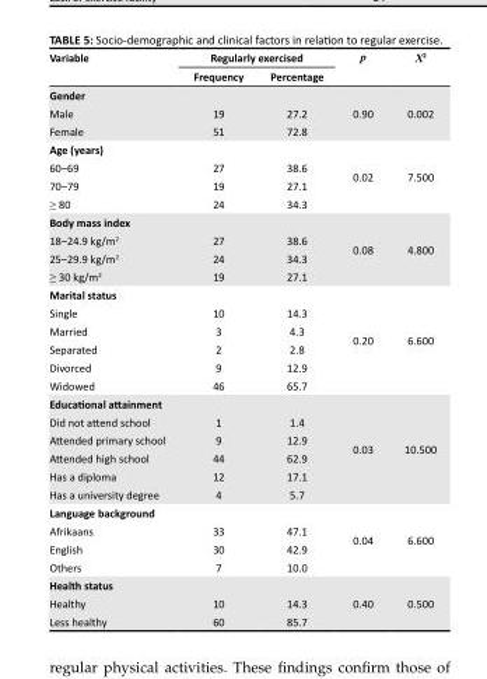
<table><thead><tr><td rowspan="2">Variable</td><td colspan="2">Regularly exercised</td><td rowspan="2">p</td><td rowspan="2">X<sup>2</sup></td></tr><tr><td>Frequency</td><td>Percentage</td></tr></thead><tbody><tr><td colspan="3">Gender</td><td rowspan="3">0.90</td><td rowspan="3">0.002</td></tr><tr><td>Male</td><td>19</td><td>27.2</td></tr><tr><td>Female</td><td>51</td><td>72.8</td></tr><tr><td colspan="3">Age (years)</td><td rowspan="4">0.02</td><td rowspan="4">7.500</td></tr><tr><td>60–69</td><td>27</td><td>38.6</td></tr><tr><td>70–79</td><td>19</td><td>27.1</td></tr><tr><td>≥ 80</td><td>24</td><td>34.3</td></tr><tr><td colspan="3">Body mass index</td><td rowspan="4">0.08</td><td rowspan="4">4.800</td></tr><tr><td>18–24.9 kg/m<sup>2</sup></td><td>27</td><td>38.6</td></tr><tr><td>25–29.9 kg/m<sup>2</sup></td><td>24</td><td>34.3</td></tr><tr><td>≥ 30 kg/m<sup>2</sup></td><td>19</td><td>27.1</td></tr><tr><td colspan="3">Marital status</td><td rowspan="6">0.20</td><td rowspan="6">6.600</td></tr><tr><td>Single</td><td>10</td><td>14.3</td></tr><tr><td>Married</td><td>3</td><td>4.3</td></tr><tr><td>Separated</td><td>2</td><td>2.8</td></tr><tr><td>Divorced</td><td>9</td><td>12.9</td></tr><tr><td>Widowed</td><td>46</td><td>65.7</td></tr><tr><td colspan="3">Educational attainment</td><td rowspan="6">0.03</td><td rowspan="6">10.500</td></tr><tr><td>Did not attend school</td><td>1</td><td>1.4</td></tr><tr><td>Attended primary school</td><td>9</td><td>12.9</td></tr><tr><td>Attended high school</td><td>44</td><td>62.9</td></tr><tr><td>Has a diploma</td><td>12</td><td>17.1</td></tr><tr><td>Has a university degree</td><td>4</td><td>5.7</td></tr><tr><td colspan="3">Language background</td><td rowspan="4">0.04</td><td rowspan="4">6.600</td></tr><tr><td>Afrikaans</td><td>33</td><td>47.1</td></tr><tr><td>English</td><td>30</td><td>42.9</td></tr><tr><td>Others</td><td>7</td><td>10.0</td></tr><tr><td colspan="3">Health status</td><td rowspan="3">0.40</td><td rowspan="3">0.500</td></tr><tr><td>Healthy</td><td>10</td><td>14.3</td></tr><tr><td>Less healthy</td><td>60</td><td>85.7</td></tr></tbody></table>